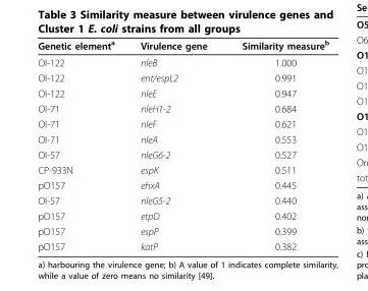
<table><thead><tr><td>Genetic element<sup>a</sup></td><td>Virulence gene</td><td>Similarity measure<sup>b</sup></td></tr></thead><tbody><tr><td>OI-122</td><td>nleB</td><td>1.000</td></tr><tr><td>OI-122</td><td>ent/espL2</td><td>0.991</td></tr><tr><td>OI-122</td><td>nleE</td><td>0.947</td></tr><tr><td>OI-71</td><td>nleH1-2</td><td>0.684</td></tr><tr><td>OI-71</td><td>nleF</td><td>0.621</td></tr><tr><td>OI-71</td><td>nleA</td><td>0.553</td></tr><tr><td>OI-57</td><td>nleG6-2</td><td>0.527</td></tr><tr><td>CP-933N</td><td>espK</td><td>0.511</td></tr><tr><td>pO157</td><td>ehxA</td><td>0.445</td></tr><tr><td>OI-57</td><td>nleG5-2</td><td>0.440</td></tr><tr><td>pO157</td><td>etpD</td><td>0.402</td></tr><tr><td>pO157</td><td>espP</td><td>0.399</td></tr><tr><td>pO157</td><td>katP</td><td>0.382</td></tr></tbody></table>